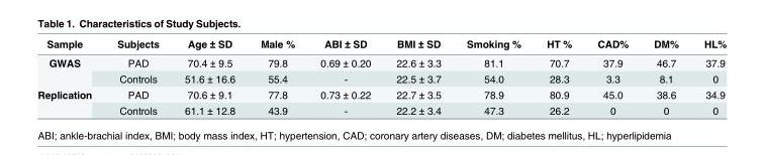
<table><thead><tr><td>Sample</td><td>Subjects</td><td>Age ± SD</td><td>Male %</td><td>ABI ± SD</td><td>BMI ± SD</td><td>Smoking %</td><td>HT %</td><td>CAD%</td><td>DM%</td><td>HL%</td></tr></thead><tbody><tr><td rowspan="2">GWAS</td><td>PAD</td><td>70.4 ± 9.5</td><td>79.8</td><td>0.69 ± 0.20</td><td>22.6 ± 3.3</td><td>81.1</td><td>70.7</td><td>37.9</td><td>46.7</td><td>37.9</td></tr><tr><td>Controls</td><td>51.6 ± 16.6</td><td>55.4</td><td>-</td><td>22.5 ± 3.7</td><td>54.0</td><td>28.3</td><td>3.3</td><td>8.1</td><td>0</td></tr><tr><td rowspan="2">Replication</td><td>PAD</td><td>70.6 ± 9.1</td><td>77.8</td><td>0.73 ± 0.22</td><td>22.7 ± 3.5</td><td>78.9</td><td>80.9</td><td>45.0</td><td>38.6</td><td>34.9</td></tr><tr><td>Controls</td><td>61.1 ± 12.8</td><td>43.9</td><td>-</td><td>22.2 ± 3.4</td><td>47.3</td><td>26.2</td><td>0</td><td>0</td><td>0</td></tr></tbody></table>